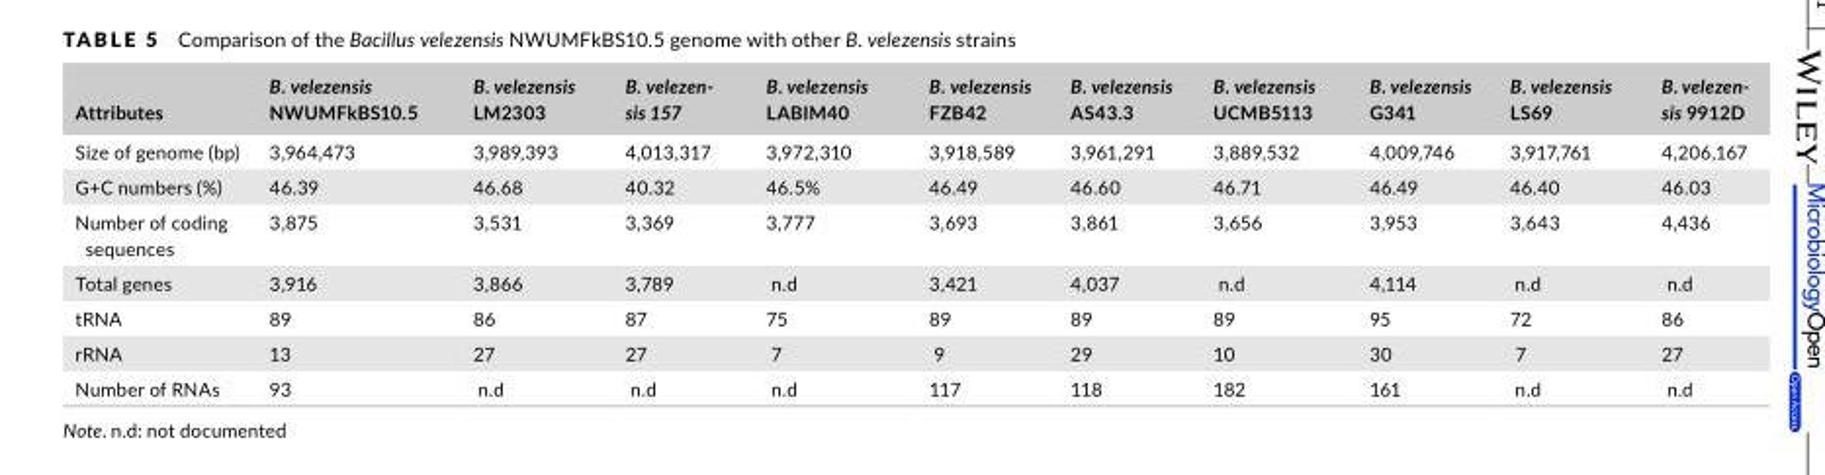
<table><thead><tr><td>Attributes</td><td>B. velezensis NWUMFkBS10.5</td><td>B. velezensis LM2303</td><td>B. velezen‐ sis 157</td><td>B. velezensis LABIM40</td><td>B. velezensis FZB42</td><td>B. velezensis AS43.3</td><td>B. velezensis UCMB5113</td><td>B. velezensis G341</td><td>B. velezensis LS69</td><td>B. velezen‐ sis 9912D</td></tr></thead><tbody><tr><td>Size of genome (bp)</td><td>3,964,473</td><td>3,989,393</td><td>4,013,317</td><td>3,972,310</td><td>3,918,589</td><td>3,961,291</td><td>3,889,532</td><td>4,009,746</td><td>3,917,761</td><td>4,206,167</td></tr><tr><td>G+C numbers (%)</td><td>46.39</td><td>46.68</td><td>40.32</td><td>46.5%</td><td>46.49</td><td>46.60</td><td>46.71</td><td>46.49</td><td>46.40</td><td>46.03</td></tr><tr><td>Number of coding sequences</td><td>3,875</td><td>3,531</td><td>3,369</td><td>3,777</td><td>3,693</td><td>3,861</td><td>3,656</td><td>3,953</td><td>3,643</td><td>4,436</td></tr><tr><td>Total genes</td><td>3,916</td><td>3,866</td><td>3,789</td><td>n.d</td><td>3,421</td><td>4,037</td><td>n.d</td><td>4,114</td><td>n.d</td><td>n.d</td></tr><tr><td>tRNA</td><td>89</td><td>86</td><td>87</td><td>75</td><td>89</td><td>89</td><td>89</td><td>95</td><td>72</td><td>86</td></tr><tr><td>rRNA</td><td>13</td><td>27</td><td>27</td><td>7</td><td>9</td><td>29</td><td>10</td><td>30</td><td>7</td><td>27</td></tr><tr><td>Number of RNAs</td><td>93</td><td>n.d</td><td>n.d</td><td>n.d</td><td>117</td><td>118</td><td>182</td><td>161</td><td>n.d</td><td>n.d</td></tr></tbody></table>